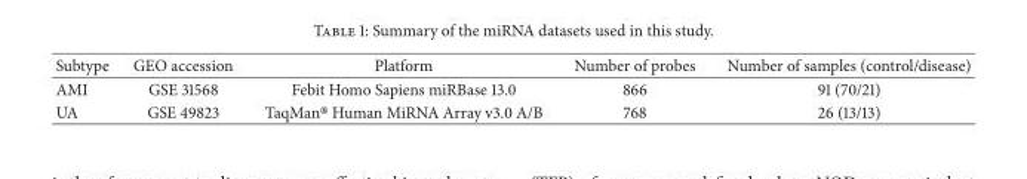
<table><thead><tr><td>Subtype</td><td>GEO accession</td><td>Platform</td><td>Number of probes</td><td>Number of samples (control/disease)</td></tr></thead><tbody><tr><td>AMI</td><td>GSE 31568</td><td>Febit Homo Sapiens miRBase 13.0</td><td>866</td><td>91 (70/21)</td></tr><tr><td>UA</td><td>GSE 49823</td><td>TaqMan® Human MiRNA Array v3.0 A/B</td><td>768</td><td>26 (13/13)</td></tr></tbody></table>